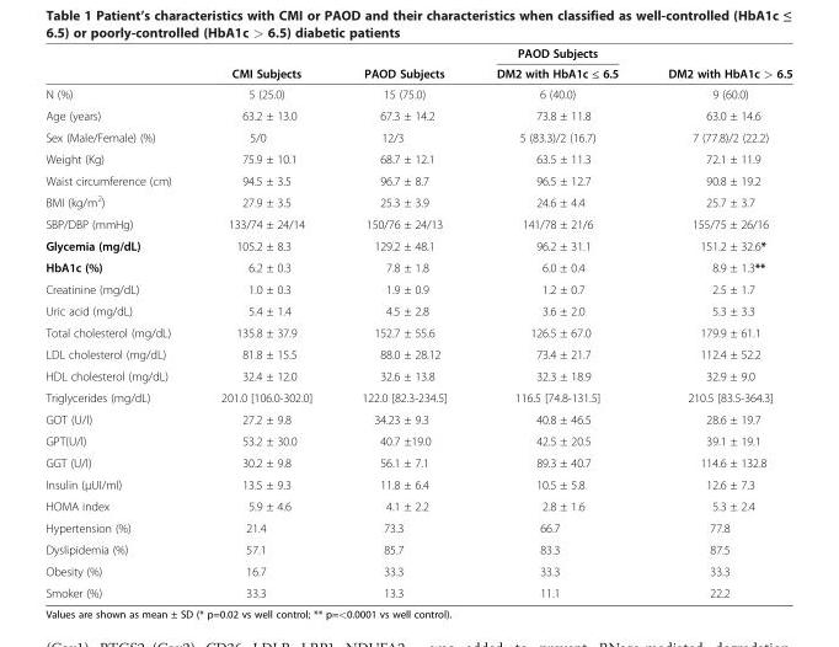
<table><thead><tr><td rowspan="2"></td><td rowspan="2">CMI Subjects</td><td rowspan="2">PAOD Subjects</td><td rowspan="2">PAOD Subjects DM2 with HbA1c ≤ 6.5</td><td rowspan="2">DM2 with HbA1c &gt; 6.5</td></tr><tr></tr></thead><tbody><tr><td>N (%)</td><td>5 (25.0)</td><td>15 (75.0)</td><td>6 (40.0)</td><td>9 (60.0)</td></tr><tr><td>Age (years)</td><td>63.2 ± 13.0</td><td>67.3 ± 14.2</td><td>73.8 ± 11.8</td><td>63.0 ± 14.6</td></tr><tr><td>Sex (Male/Female) (%)</td><td>5/0</td><td>12/3</td><td>5 (83.3)/2 (16.7)</td><td>7 (77.8)/2 (22.2)</td></tr><tr><td>Weight (Kg)</td><td>75.9 ± 10.1</td><td>68.7 ± 12.1</td><td>63.5 ± 11.3</td><td>72.1 ± 11.9</td></tr><tr><td>Waist circumference (cm)</td><td>94.5 ± 3.5</td><td>96.7 ± 8.7</td><td>96.5 ± 12.7</td><td>90.8 ± 19.2</td></tr><tr><td>BMI (kg/m<sup>2</sup>)</td><td>27.9 ± 3.5</td><td>25.3 ± 3.9</td><td>24.6 ± 4.4</td><td>25.7 ± 3.7</td></tr><tr><td>SBP/DBP (mmHg)</td><td>133/74 ± 24/14</td><td>150/76 ± 24/13</td><td>141/78 ± 21/6</td><td>155/75 ± 26/16</td></tr><tr><td>Glycemia (mg/dL)</td><td>105.2 ± 8.3</td><td>129.2 ± 48.1</td><td>96.2 ± 31.1</td><td>151.2 ± 32.6*</td></tr><tr><td>HbA1c (%)</td><td>6.2 ± 0.3</td><td>7.8 ± 1.8</td><td>6.0 ± 0.4</td><td>8.9 ± 1.3**</td></tr><tr><td>Creatinine (mg/dL)</td><td>1.0 ± 0.3</td><td>1.9 ± 0.9</td><td>1.2 ± 0.7</td><td>2.5 ± 1.7</td></tr><tr><td>Uric acid (mg/dL)</td><td>5.4 ± 1.4</td><td>4.5 ± 2.8</td><td>3.6 ± 2.0</td><td>5.3 ± 3.3</td></tr><tr><td>Total cholesterol (mg/dL)</td><td>135.8 ± 37.9</td><td>152.7 ± 55.6</td><td>126.5 ± 67.0</td><td>179.9 ± 61.1</td></tr><tr><td>LDL cholesterol (mg/dL)</td><td>81.8 ± 15.5</td><td>88.0 ± 28.12</td><td>73.4 ± 21.7</td><td>112.4 ± 52.2</td></tr><tr><td>HDL cholesterol (mg/dL)</td><td>32.4 ± 12.0</td><td>32.6 ± 13.8</td><td>32.3 ± 18.9</td><td>32.9 ± 9.0</td></tr><tr><td>Triglycerides (mg/dL)</td><td>201.0 [106.0-302.0]</td><td>122.0 [82.3-234.5]</td><td>116.5 [74.8-131.5]</td><td>210.5 [83.5-364.3]</td></tr><tr><td>GOT (U/l)</td><td>27.2 ± 9.8</td><td>34.23 ± 9.3</td><td>40.8 ± 46.5</td><td>28.6 ± 19.7</td></tr><tr><td>GPT(U/l)</td><td>53.2 ± 30.0</td><td>40.7 ±19.0</td><td>42.5 ± 20.5</td><td>39.1 ± 19.1</td></tr><tr><td>GGT (U/l)</td><td>30.2 ± 9.8</td><td>56.1 ± 7.1</td><td>89.3 ± 40.7</td><td>114.6 ± 132.8</td></tr><tr><td>Insulin (μUI/ml)</td><td>13.5 ± 9.3</td><td>11.8 ± 6.4</td><td>10.5 ± 5.8</td><td>12.6 ± 7.3</td></tr><tr><td>HOMA index</td><td>5.9 ± 4.6</td><td>4.1 ± 2.2</td><td>2.8 ± 1.6</td><td>5.3 ± 2.4</td></tr><tr><td>Hypertension (%)</td><td>21.4</td><td>73.3</td><td>66.7</td><td>77.8</td></tr><tr><td>Dyslipidemia (%)</td><td>57.1</td><td>85.7</td><td>83.3</td><td>87.5</td></tr><tr><td>Obesity (%)</td><td>16.7</td><td>33.3</td><td>33.3</td><td>33.3</td></tr><tr><td>Smoker (%)</td><td>33.3</td><td>13.3</td><td>11.1</td><td>22.2</td></tr></tbody></table>